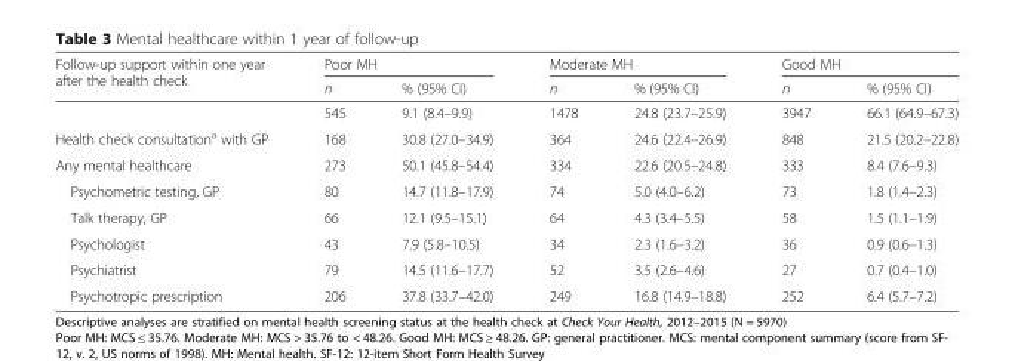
<table><thead><tr><td rowspan="2">Follow-up support within one year after the health check</td><td colspan="2">Poor MH</td><td colspan="2">Moderate MH</td><td colspan="2">Good MH</td></tr><tr><td>n</td><td>% (95% CI)</td><td>n</td><td>% (95% CI)</td><td>n</td><td>% (95% CI)</td></tr></thead><tbody><tr><td></td><td>545</td><td>9.1 (8.4–9.9)</td><td>1478</td><td>24.8 (23.7–25.9)</td><td>3947</td><td>66.1 (64.9–67.3)</td></tr><tr><td>Health check consultation<sup>a</sup> with GP</td><td>168</td><td>30.8 (27.0–34.9)</td><td>364</td><td>24.6 (22.4–26.9)</td><td>848</td><td>21.5 (20.2–22.8)</td></tr><tr><td>Any mental healthcare</td><td>273</td><td>50.1 (45.8–54.4)</td><td>334</td><td>22.6 (20.5–24.8)</td><td>333</td><td>8.4 (7.6–9.3)</td></tr><tr><td>Psychometric testing, GP</td><td>80</td><td>14.7 (11.8–17.9)</td><td>74</td><td>5.0 (4.0–6.2)</td><td>73</td><td>1.8 (1.4–2.3)</td></tr><tr><td>Talk therapy, GP</td><td>66</td><td>12.1 (9.5–15.1)</td><td>64</td><td>4.3 (3.4–5.5)</td><td>58</td><td>1.5 (1.1–1.9)</td></tr><tr><td>Psychologist</td><td>43</td><td>7.9 (5.8–10.5)</td><td>34</td><td>2.3 (1.6–3.2)</td><td>36</td><td>0.9 (0.6–1.3)</td></tr><tr><td>Psychiatrist</td><td>79</td><td>14.5 (11.6–17.7)</td><td>52</td><td>3.5 (2.6–4.6)</td><td>27</td><td>0.7 (0.4–1.0)</td></tr><tr><td>Psychotropic prescription</td><td>206</td><td>37.8 (33.7–42.0)</td><td>249</td><td>16.8 (14.9–18.8)</td><td>252</td><td>6.4 (5.7–7.2)</td></tr></tbody></table>